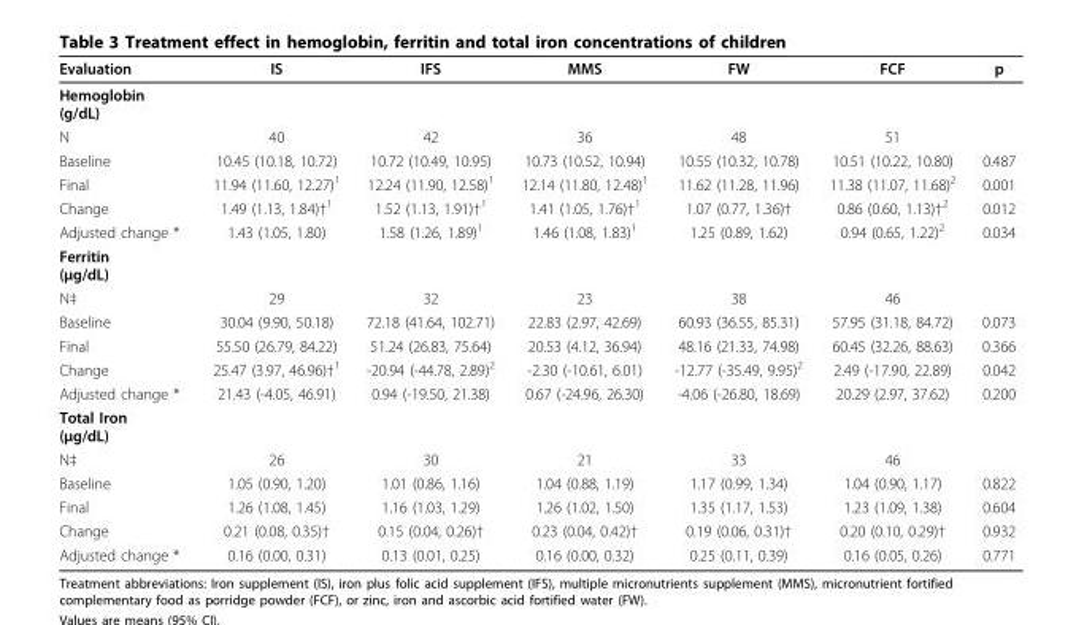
<table><thead><tr><td>Evaluation</td><td>IS</td><td>IFS</td><td>MMS</td><td>FW</td><td>FCF</td><td>p</td></tr></thead><tbody><tr><td colspan="7">Hemoglobin (g/dL)</td></tr><tr><td>N</td><td>40</td><td>42</td><td>36</td><td>48</td><td>51</td><td></td></tr><tr><td>Baseline</td><td>10.45 (10.18, 10.72)</td><td>10.72 (10.49, 10.95)</td><td>10.73 (10.52, 10.94)</td><td>10.55 (10.32, 10.78)</td><td>10.51 (10.22, 10.80)</td><td>0.487</td></tr><tr><td>Final</td><td>11.94 (11.60, 12.27)<sup>1</sup></td><td>12.24 (11.90, 12.58)<sup>1</sup></td><td>12.14 (11.80, 12.48)<sup>1</sup></td><td>11.62 (11.28, 11.96)</td><td>11.38 (11.07, 11.68)<sup>2</sup></td><td>0.001</td></tr><tr><td>Change</td><td>1.49 (1.13, 1.84)†<sup>1</sup></td><td>1.52 (1.13, 1.91)†<sup>1</sup></td><td>1.41 (1.05, 1.76)†<sup>1</sup></td><td>1.07 (0.77, 1.36)†</td><td>0.86 (0.60, 1.13)†<sup>2</sup></td><td>0.012</td></tr><tr><td>Adjusted change *</td><td>1.43 (1.05, 1.80)</td><td>1.58 (1.26, 1.89)<sup>1</sup></td><td>1.46 (1.08, 1.83)<sup>1</sup></td><td>1.25 (0.89, 1.62)</td><td>0.94 (0.65, 1.22)<sup>2</sup></td><td>0.034</td></tr><tr><td colspan="7">Ferritin (μg/dL)</td></tr><tr><td>N‡</td><td>29</td><td>32</td><td>23</td><td>38</td><td>46</td><td></td></tr><tr><td>Baseline</td><td>30.04 (9.90, 50.18)</td><td>72.18 (41.64, 102.71)</td><td>22.83 (2.97, 42.69)</td><td>60.93 (36.55, 85.31)</td><td>57.95 (31.18, 84.72)</td><td>0.073</td></tr><tr><td>Final</td><td>55.50 (26.79, 84.22)</td><td>51.24 (26.83, 75.64)</td><td>20.53 (4.12, 36.94)</td><td>48.16 (21.33, 74.98)</td><td>60.45 (32.26, 88.63)</td><td>0.366</td></tr><tr><td>Change</td><td>25.47 (3.97, 46.96)†<sup>1</sup></td><td>-20.94 (-44.78, 2.89)<sup>2</sup></td><td>-2.30 (-10.61, 6.01)</td><td>-12.77 (-35.49, 9.95)<sup>2</sup></td><td>2.49 (-17.90, 22.89)</td><td>0.042</td></tr><tr><td>Adjusted change *</td><td>21.43 (-4.05, 46.91)</td><td>0.94 (-19.50, 21.38)</td><td>0.67 (-24.96, 26.30)</td><td>-4.06 (-26.80, 18.69)</td><td>20.29 (2.97, 37.62)</td><td>0.200</td></tr><tr><td colspan="7">Total Iron (μg/dL)</td></tr><tr><td>N‡</td><td>26</td><td>30</td><td>21</td><td>33</td><td>46</td><td></td></tr><tr><td>Baseline</td><td>1.05 (0.90, 1.20)</td><td>1.01 (0.86, 1.16)</td><td>1.04 (0.88, 1.19)</td><td>1.17 (0.99, 1.34)</td><td>1.04 (0.90, 1.17)</td><td>0.822</td></tr><tr><td>Final</td><td>1.26 (1.08, 1.45)</td><td>1.16 (1.03, 1.29)</td><td>1.26 (1.02, 1.50)</td><td>1.35 (1.17, 1.53)</td><td>1.23 (1.09, 1.38)</td><td>0.604</td></tr><tr><td>Change</td><td>0.21 (0.08, 0.35)†</td><td>0.15 (0.04, 0.26)†</td><td>0.23 (0.04, 0.42)†</td><td>0.19 (0.06, 0.31)†</td><td>0.20 (0.10, 0.29)†</td><td>0.932</td></tr><tr><td>Adjusted change *</td><td>0.16 (0.00, 0.31)</td><td>0.13 (0.01, 0.25)</td><td>0.16 (0.00, 0.32)</td><td>0.25 (0.11, 0.39)</td><td>0.16 (0.05, 0.26)</td><td>0.771</td></tr></tbody></table>